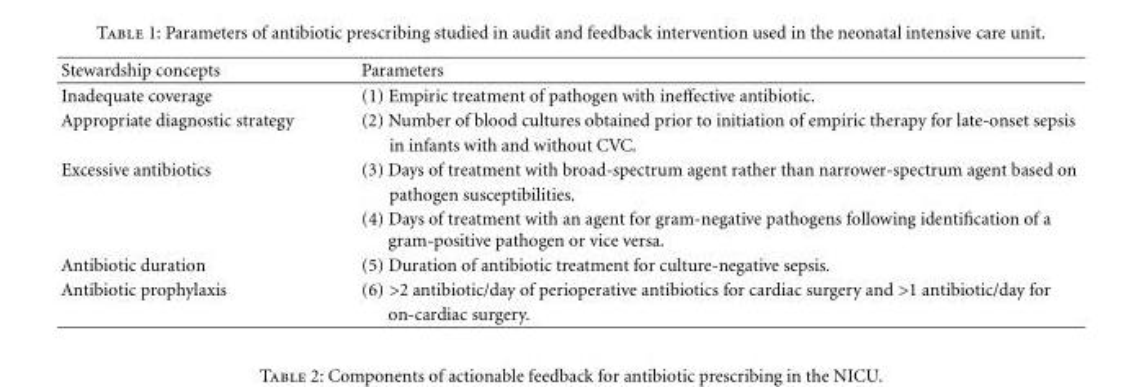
<table><thead><tr><td>Stewardship concepts</td><td>Parameters</td></tr></thead><tbody><tr><td>Inadequate coverage</td><td>(1) Empiric treatment of pathogen with ineffective antibiotic.</td></tr><tr><td>Appropriate diagnostic strategy</td><td>(2) Number of blood cultures obtained prior to initiation of empiric therapy for late-onset sepsis in infants with and without CVC.</td></tr><tr><td rowspan="2">Excessive antibiotics</td><td>(3) Days of treatment with broad-spectrum agent rather than narrower-spectrum agent based on pathogen susceptibilities.</td></tr><tr><td>(4) Days of treatment with an agent for gram-negative pathogens following identification of a gram-positive pathogen or vice versa.</td></tr><tr><td>Antibiotic duration</td><td>(5) Duration of antibiotic treatment for culture-negative sepsis.</td></tr><tr><td>Antibiotic prophylaxis</td><td>(6) &gt;2 antibiotic/day of perioperative antibiotics for cardiac surgery and &gt;1 antibiotic/day for on-cardiac surgery.</td></tr></tbody></table>